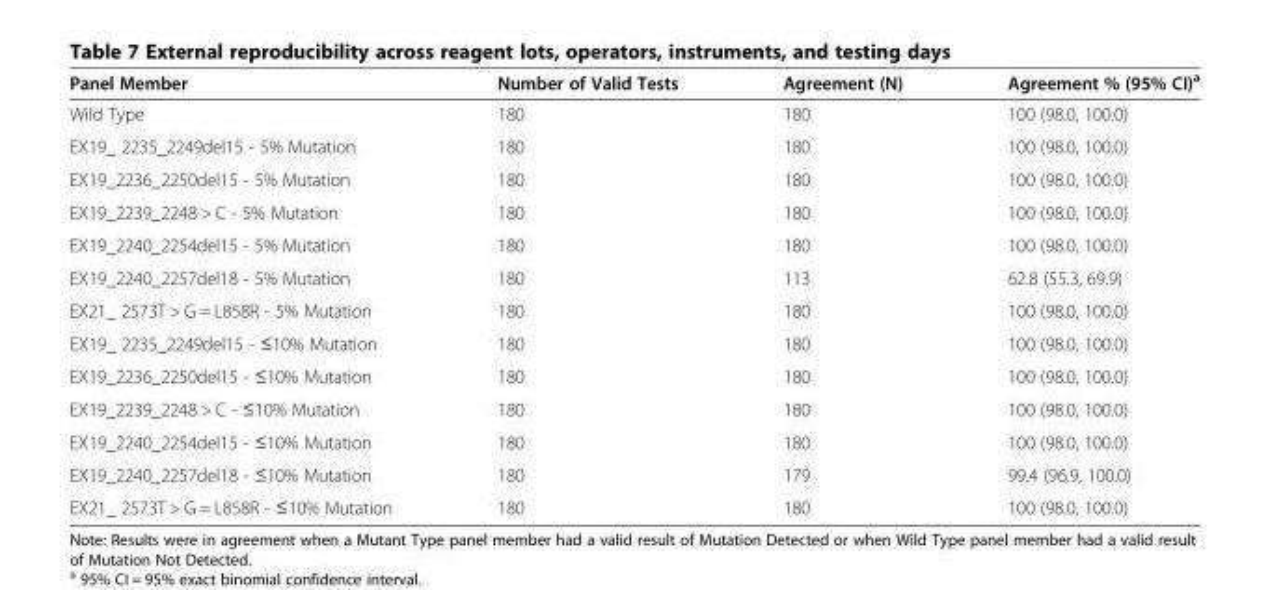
<table><thead><tr><td>Panel Member</td><td>Number of Valid Tests</td><td>Agreement (N)</td><td>Agreement % (95% CI)<sup>a</sup></td></tr></thead><tbody><tr><td>Wild Type</td><td>180</td><td>180</td><td>100 (98.0, 100.0)</td></tr><tr><td>EX19_ 2235_2249del15 - 5% Mutation</td><td>180</td><td>180</td><td>100 (98.0, 100.0)</td></tr><tr><td>EX19_2236_2250del15 - 5% Mutation</td><td>180</td><td>180</td><td>100 (98.0, 100.0)</td></tr><tr><td>EX19_2239_2248 &gt; C - 5% Mutation</td><td>180</td><td>180</td><td>100 (98.0, 100.0)</td></tr><tr><td>EX19_2240_2254del15 - 5% Mutation</td><td>180</td><td>180</td><td>100 (98.0, 100.0)</td></tr><tr><td>EX19_2240_2257del18 - 5% Mutation</td><td>180</td><td>113</td><td>62.8 (55.3, 69.9)</td></tr><tr><td>EX21_ 2573T &gt; G = L858R - 5% Mutation</td><td>180</td><td>180</td><td>100 (98.0, 100.0)</td></tr><tr><td>EX19_ 2235_2249del15 - ≤10% Mutation</td><td>180</td><td>180</td><td>100 (98.0, 100.0)</td></tr><tr><td>EX19_2236_2250del15 - ≤10% Mutation</td><td>180</td><td>180</td><td>100 (98.0, 100.0)</td></tr><tr><td>EX19_2239_2248 &gt; C - ≤10% Mutation</td><td>180</td><td>180</td><td>100 (98.0, 100.0)</td></tr><tr><td>EX19_2240_2254del15 - ≤10% Mutation</td><td>180</td><td>180</td><td>100 (98.0, 100.0)</td></tr><tr><td>EX19_2240_2257del18 - ≤10% Mutation</td><td>180</td><td>179</td><td>99.4 (96.9, 100.0)</td></tr><tr><td>EX21_ 2573T &gt; G = L858R - ≤10% Mutation</td><td>180</td><td>180</td><td>100 (98.0, 100.0)</td></tr></tbody></table>